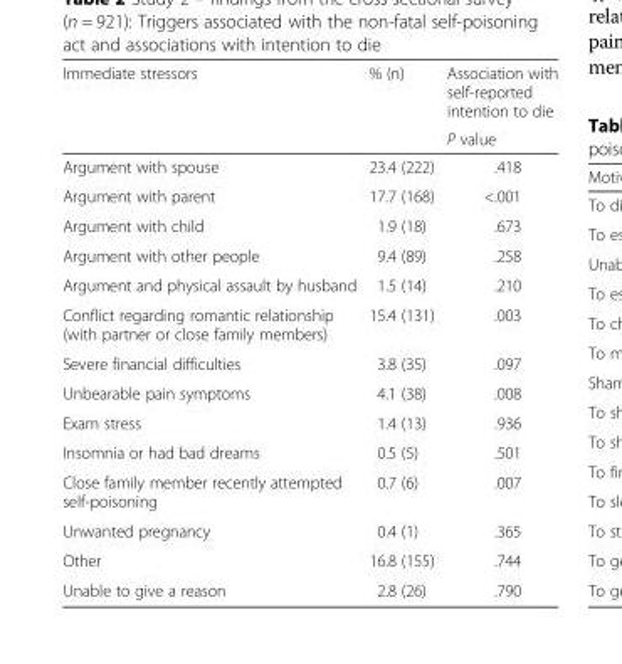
<table><thead><tr><td rowspan="2">Immediate stressors</td><td rowspan="2">% (n)</td><td rowspan="2">Association with self-reported intention to die P value</td></tr><tr></tr></thead><tbody><tr><td>Argument with spouse</td><td>23.4 (222)</td><td>.418</td></tr><tr><td>Argument with parent</td><td>17.7 (168)</td><td>&lt;.001</td></tr><tr><td>Argument with child</td><td>1.9 (18)</td><td>.673</td></tr><tr><td>Argument with other people</td><td>9.4 (89)</td><td>.258</td></tr><tr><td>Argument and physical assault by husband</td><td>1.5 (14)</td><td>.210</td></tr><tr><td>Conflict regarding romantic relationship (with partner or close family members)</td><td>15.4 (131)</td><td>.003</td></tr><tr><td>Severe financial difficulties</td><td>3.8 (35)</td><td>.097</td></tr><tr><td>Unbearable pain symptoms</td><td>4.1 (38)</td><td>.008</td></tr><tr><td>Exam stress</td><td>1.4 (13)</td><td>.936</td></tr><tr><td>Insomnia or had bad dreams</td><td>0.5 (5)</td><td>.501</td></tr><tr><td>Close family member recently attempted self-poisoning</td><td>0.7 (6)</td><td>.007</td></tr><tr><td>Unwanted pregnancy</td><td>0.4 (1)</td><td>.365</td></tr><tr><td>Other</td><td>16.8 (155)</td><td>.744</td></tr><tr><td>Unable to give a reason</td><td>2.8 (26)</td><td>.790</td></tr></tbody></table>